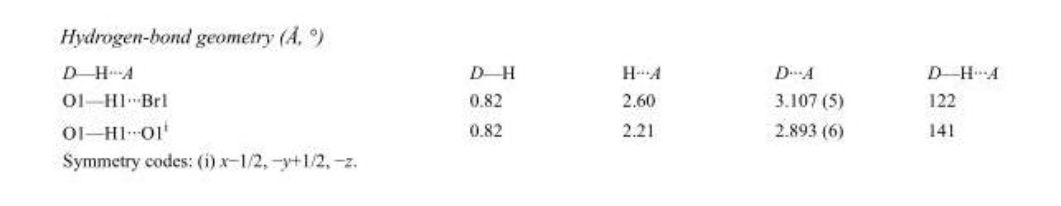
<table><tbody><tr><td>D—H···A</td><td>D—H</td><td>H···A</td><td>D···A</td><td>D—H···A</td></tr><tr><td>O1—H1···Br1</td><td>0.82</td><td>2.60</td><td>3.107 (5)</td><td>122</td></tr><tr><td>O1—H1···O1<sup>i</sup></td><td>0.82</td><td>2.21</td><td>2.893 (6)</td><td>141</td></tr></tbody></table>